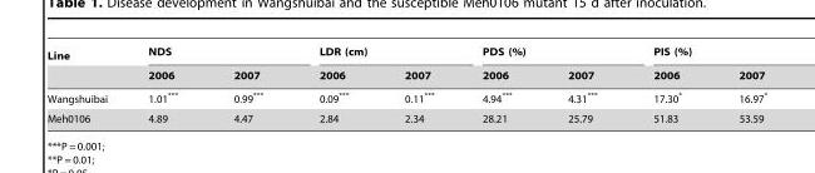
<table><thead><tr><td rowspan="2">Line</td><td colspan="2">NDS</td><td colspan="2">LDR (cm)</td><td colspan="2">PDS (%)</td><td colspan="2">PIS (%)</td></tr><tr><td>2006</td><td>2007</td><td>2006</td><td>2007</td><td>2006</td><td>2007</td><td>2006</td><td>2007</td></tr></thead><tbody><tr><td>Wangshuibai</td><td>1.01***</td><td>0.99***</td><td>0.09***</td><td>0.11***</td><td>4.94***</td><td>4.31***</td><td>17.30*</td><td>16.97*</td></tr><tr><td>Meh0106</td><td>4.89</td><td>4.47</td><td>2.84</td><td>2.34</td><td>28.21</td><td>25.79</td><td>51.83</td><td>53.59</td></tr></tbody></table>